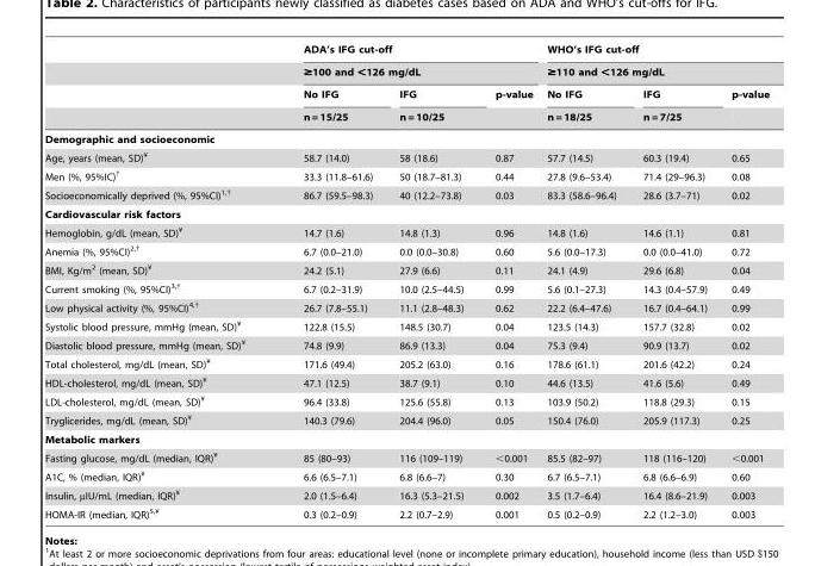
<table><thead><tr><td rowspan="4"></td><td rowspan="2" colspan="3">ADA’s IFG cut-off ≥100 and &lt;126 mg/dL</td><td rowspan="2" colspan="3">WHO’s IFG cut-off ≥110 and &lt;126 mg/dL</td></tr><tr></tr><tr><td rowspan="2">No IFG n = 15/25</td><td rowspan="2">IFG n = 10/25</td><td rowspan="2">p-value</td><td rowspan="2">No IFG n = 18/25</td><td rowspan="2">IFG n = 7/25</td><td rowspan="2">p-value</td></tr><tr></tr></thead><tbody><tr><td colspan="7">Demographic and socioeconomic</td></tr><tr><td>Age, years (mean, SD)¥</td><td>58.7 (14.0)</td><td>58 (18.6)</td><td>0.87</td><td>57.7 (14.5)</td><td>60.3 (19.4)</td><td>0.65</td></tr><tr><td>Men (%, 95%IC)†</td><td>33.3 (11.8–61.6)</td><td>50 (18.7–81.3)</td><td>0.44</td><td>27.8 (9.6–53.4)</td><td>71.4 (29–96.3)</td><td>0.08</td></tr><tr><td>Socioeconomically deprived (%, 95%CI)<sup>1,</sup>†</td><td>86.7 (59.5–98.3)</td><td>40 (12.2–73.8)</td><td>0.03</td><td>83.3 (58.6–96.4)</td><td>28.6 (3.7–71)</td><td>0.02</td></tr><tr><td colspan="7">Cardiovascular risk factors</td></tr><tr><td>Hemoglobin, g/dL (mean, SD)¥</td><td>14.7 (1.6)</td><td>14.8 (1.3)</td><td>0.96</td><td>14.8 (1.6)</td><td>14.6 (1.1)</td><td>0.81</td></tr><tr><td>Anemia (%, 95%CI)<sup>2,</sup>†</td><td>6.7 (0.0–21.0)</td><td>0.0 (0.0–30.8)</td><td>0.60</td><td>5.6 (0.0–17.3)</td><td>0.0 (0.0–41.0)</td><td>0.72</td></tr><tr><td>BMI, Kg/m<sup>2</sup> (mean, SD)¥</td><td>24.2 (5.1)</td><td>27.9 (6.6)</td><td>0.11</td><td>24.1 (4.9)</td><td>29.6 (6.8)</td><td>0.04</td></tr><tr><td>Current smoking (%, 95%CI)<sup>3,</sup>†</td><td>6.7 (0.2–31.9)</td><td>10.0 (2.5–44.5)</td><td>0.99</td><td>5.6 (0.1–27.3)</td><td>14.3 (0.4–57.9)</td><td>0.49</td></tr><tr><td>Low physical activity (%, 95%CI)<sup>4,</sup>†</td><td>26.7 (7.8–55.1)</td><td>11.1 (2.8–48.3)</td><td>0.62</td><td>22.2 (6.4–47.6)</td><td>16.7 (0.4–64.1)</td><td>0.99</td></tr><tr><td>Systolic blood pressure, mmHg (mean, SD)¥</td><td>122.8 (15.5)</td><td>148.5 (30.7)</td><td>0.04</td><td>123.5 (14.3)</td><td>157.7 (32.8)</td><td>0.02</td></tr><tr><td>Diastolic blood pressure, mmHg (mean, SD)¥</td><td>74.8 (9.9)</td><td>86.9 (13.3)</td><td>0.04</td><td>75.3 (9.4)</td><td>90.9 (13.7)</td><td>0.02</td></tr><tr><td>Total cholesterol, mg/dL (mean, SD)¥</td><td>171.6 (49.4)</td><td>205.2 (63.0)</td><td>0.16</td><td>178.6 (61.1)</td><td>201.6 (42.2)</td><td>0.24</td></tr><tr><td>HDL-cholesterol, mg/dL (mean, SD)¥</td><td>47.1 (12.5)</td><td>38.7 (9.1)</td><td>0.10</td><td>44.6 (13.5)</td><td>41.6 (5.6)</td><td>0.49</td></tr><tr><td>LDL-cholesterol, mg/dL (mean, SD)¥</td><td>96.4 (33.8)</td><td>125.6 (55.8)</td><td>0.13</td><td>103.9 (50.2)</td><td>118.8 (29.3)</td><td>0.15</td></tr><tr><td>Tryglicerides, mg/dL (mean, SD)¥</td><td>140.3 (79.6)</td><td>204.4 (96.0)</td><td>0.05</td><td>150.4 (76.0)</td><td>205.9 (117.3)</td><td>0.25</td></tr><tr><td colspan="7">Metabolic markers</td></tr><tr><td>Fasting glucose, mg/dL (median, IQR)¥</td><td>85 (80–93)</td><td>116 (109–119)</td><td>&lt;0.001</td><td>85.5 (82–97)</td><td>118 (116–120)</td><td>&lt;0.001</td></tr><tr><td>A1C, % (median, IQR)¥</td><td>6.6 (6.5–7.1)</td><td>6.8 (6.6–7)</td><td>0.30</td><td>6.7 (6.5–7.1)</td><td>6.8 (6.6–6.9)</td><td>0.60</td></tr><tr><td>Insulin, µIU/mL (median, IQR)¥</td><td>2.0 (1.5–6.4)</td><td>16.3 (5.3–21.5)</td><td>0.002</td><td>3.5 (1.7–6.4)</td><td>16.4 (8.6–21.9)</td><td>0.003</td></tr><tr><td>HOMA-IR (median, IQR)<sup>5,</sup>¥</td><td>0.3 (0.2–0.9)</td><td>2.2 (0.7–2.9)</td><td>0.001</td><td>0.5 (0.2–0.9)</td><td>2.2 (1.2–3.0)</td><td>0.003</td></tr></tbody></table>